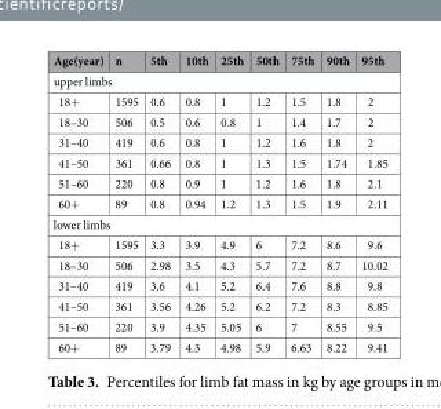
<table><thead><tr><td>Age(year)</td><td>n</td><td>5th</td><td>10th</td><td>25th</td><td>50th</td><td>75th</td><td>90th</td><td>95th</td></tr></thead><tbody><tr><td colspan="9">upper limbs</td></tr><tr><td>18+</td><td>1595</td><td>0.6</td><td>0.8</td><td>1</td><td>1.2</td><td>1.5</td><td>1.8</td><td>2</td></tr><tr><td>18–30</td><td>506</td><td>0.5</td><td>0.6</td><td>0.8</td><td>1</td><td>1.4</td><td>1.7</td><td>2</td></tr><tr><td>31–40</td><td>419</td><td>0.6</td><td>0.8</td><td>1</td><td>1.2</td><td>1.6</td><td>1.8</td><td>2</td></tr><tr><td>41–50</td><td>361</td><td>0.66</td><td>0.8</td><td>1</td><td>1.3</td><td>1.5</td><td>1.74</td><td>1.85</td></tr><tr><td>51–60</td><td>220</td><td>0.8</td><td>0.9</td><td>1</td><td>1.2</td><td>1.6</td><td>1.8</td><td>2.1</td></tr><tr><td>60+</td><td>89</td><td>0.8</td><td>0.94</td><td>1.2</td><td>1.3</td><td>1.5</td><td>1.9</td><td>2.11</td></tr><tr><td colspan="9">lower limbs</td></tr><tr><td>18+</td><td>1595</td><td>3.3</td><td>3.9</td><td>4.9</td><td>6</td><td>7.2</td><td>8.6</td><td>9.6</td></tr><tr><td>18–30</td><td>506</td><td>2.98</td><td>3.5</td><td>4.3</td><td>5.7</td><td>7.2</td><td>8.7</td><td>10.02</td></tr><tr><td>31–40</td><td>419</td><td>3.6</td><td>4.1</td><td>5.2</td><td>6.4</td><td>7.6</td><td>8.8</td><td>9.8</td></tr><tr><td>41–50</td><td>361</td><td>3.56</td><td>4.26</td><td>5.2</td><td>6.2</td><td>7.2</td><td>8.3</td><td>8.85</td></tr><tr><td>51–60</td><td>220</td><td>3.9</td><td>4.35</td><td>5.05</td><td>6</td><td>7</td><td>8.55</td><td>9.5</td></tr><tr><td>60+</td><td>89</td><td>3.79</td><td>4.3</td><td>4.98</td><td>5.9</td><td>6.63</td><td>8.22</td><td>9.41</td></tr></tbody></table>